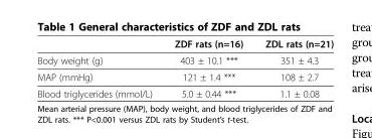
<table><thead><tr><td></td><td>ZDF rats (n=16)</td><td>ZDL rats (n=21)</td></tr></thead><tbody><tr><td>Body weight (g)</td><td>403 ± 10.1 ***</td><td>351 ± 4.3</td></tr><tr><td>MAP (mmHg)</td><td>121 ± 1.4 ***</td><td>108 ± 2.7</td></tr><tr><td>Blood triglycerides (mmol/L)</td><td>5.0 ± 0.44 ***</td><td>1.1 ± 0.08</td></tr></tbody></table>